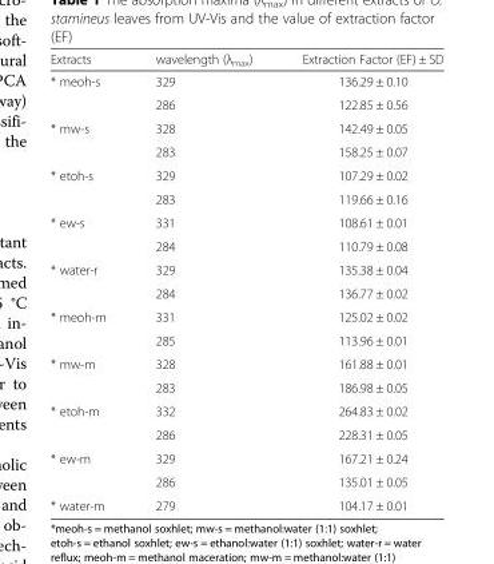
<table><thead><tr><td>Extracts</td><td>wavelength (λ<sub>max</sub>)</td><td>Extraction Factor (EF) ± SD</td></tr></thead><tbody><tr><td rowspan="2">* meoh-s</td><td>329</td><td>136.29 ± 0.10</td></tr><tr><td>286</td><td>122.85 ± 0.56</td></tr><tr><td rowspan="2">* mw-s</td><td>328</td><td>142.49 ± 0.05</td></tr><tr><td>283</td><td>158.25 ± 0.07</td></tr><tr><td rowspan="2">* etoh-s</td><td>329</td><td>107.29 ± 0.02</td></tr><tr><td>283</td><td>119.66 ± 0.16</td></tr><tr><td rowspan="2">* ew-s</td><td>331</td><td>108.61 ± 0.01</td></tr><tr><td>284</td><td>110.79 ± 0.08</td></tr><tr><td rowspan="2">* water-r</td><td>329</td><td>135.38 ± 0.04</td></tr><tr><td>284</td><td>136.77 ± 0.02</td></tr><tr><td rowspan="2">* meoh-m</td><td>331</td><td>125.02 ± 0.02</td></tr><tr><td>285</td><td>113.96 ± 0.01</td></tr><tr><td rowspan="2">* mw-m</td><td>328</td><td>161.88 ± 0.01</td></tr><tr><td>283</td><td>186.98 ± 0.05</td></tr><tr><td rowspan="2">* etoh-m</td><td>332</td><td>264.83 ± 0.02</td></tr><tr><td>286</td><td>228.31 ± 0.05</td></tr><tr><td rowspan="2">* ew-m</td><td>329</td><td>167.21 ± 0.24</td></tr><tr><td>286</td><td>135.01 ± 0.05</td></tr><tr><td>* water-m</td><td>279</td><td>104.17 ± 0.01</td></tr></tbody></table>